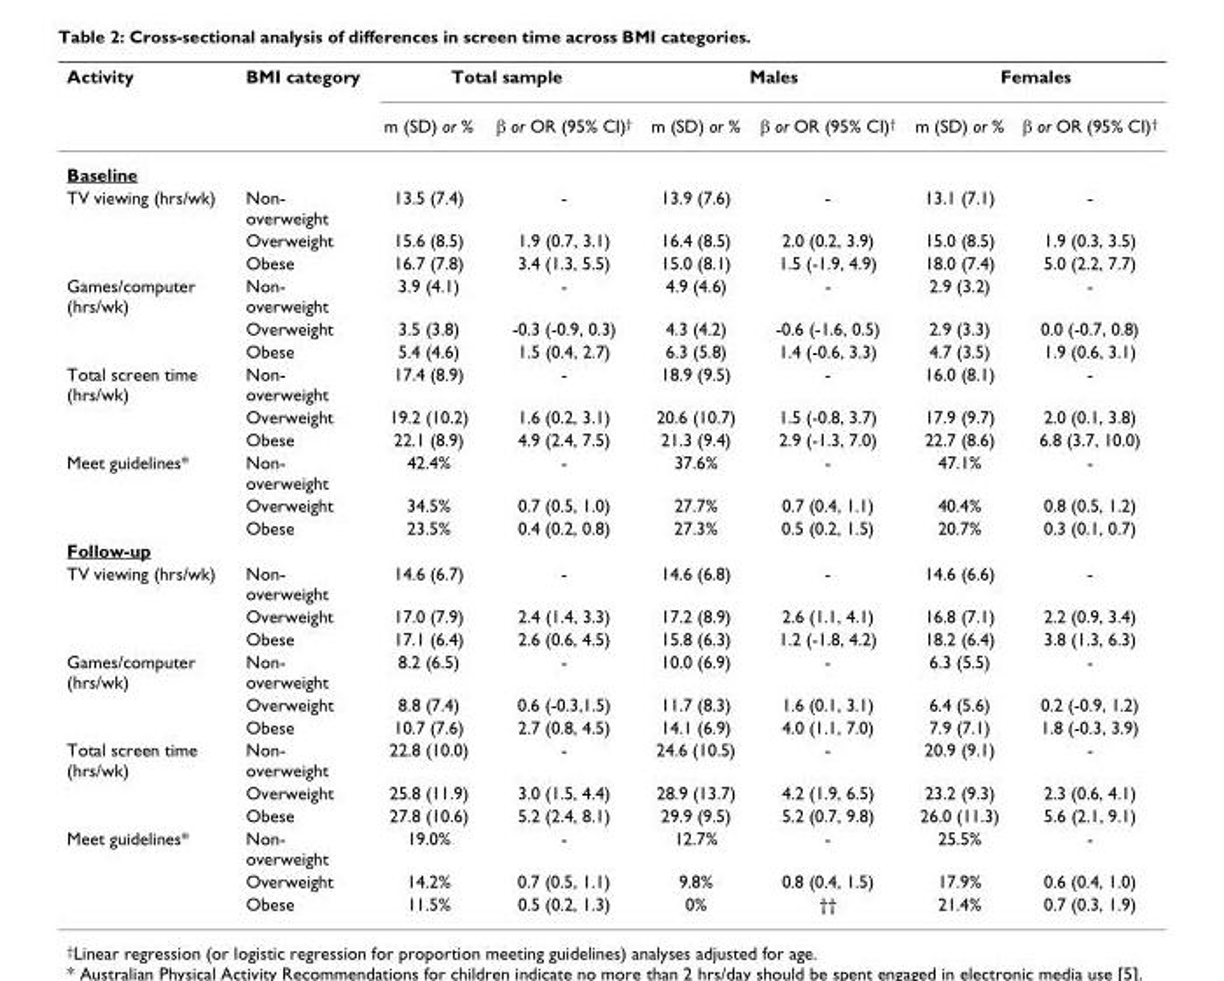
<table><thead><tr><td rowspan="2">Activity</td><td rowspan="2">BMI category</td><td colspan="2">Total sample</td><td colspan="2">Males</td><td colspan="2">Females</td></tr><tr><td>m (SD) or %</td><td>β or OR (95% CI)<sup>†</sup></td><td>m (SD) or %</td><td>β or OR (95% CI)<sup>†</sup></td><td>m (SD) or %</td><td>β or OR (95% CI)<sup>†</sup></td></tr></thead><tbody><tr><td colspan="8">Baseline</td></tr><tr><td rowspan="3">TV viewing (hrs/wk)</td><td>Non- overweight</td><td>13.5 (7.4)</td><td>-</td><td>13.9 (7.6)</td><td>-</td><td>13.1 (7.1)</td><td>-</td></tr><tr><td>Overweight</td><td>15.6 (8.5)</td><td>1.9 (0.7, 3.1)</td><td>16.4 (8.5)</td><td>2.0 (0.2, 3.9)</td><td>15.0 (8.5)</td><td>1.9 (0.3, 3.5)</td></tr><tr><td>Obese</td><td>16.7 (7.8)</td><td>3.4 (1.3, 5.5)</td><td>15.0 (8.1)</td><td>1.5 (-1.9, 4.9)</td><td>18.0 (7.4)</td><td>5.0 (2.2, 7.7)</td></tr><tr><td rowspan="3">Games/computer (hrs/wk)</td><td>Non- overweight</td><td>3.9 (4.1)</td><td>-</td><td>4.9 (4.6)</td><td>-</td><td>2.9 (3.2)</td><td>-</td></tr><tr><td>Overweight</td><td>3.5 (3.8)</td><td>-0.3 (-0.9, 0.3)</td><td>4.3 (4.2)</td><td>-0.6 (-1.6, 0.5)</td><td>2.9 (3.3)</td><td>0.0 (-0.7, 0.8)</td></tr><tr><td>Obese</td><td>5.4 (4.6)</td><td>1.5 (0.4, 2.7)</td><td>6.3 (5.8)</td><td>1.4 (-0.6, 3.3)</td><td>4.7 (3.5)</td><td>1.9 (0.6, 3.1)</td></tr><tr><td rowspan="3">Total screen time (hrs/wk)</td><td>Non- overweight</td><td>17.4 (8.9)</td><td>-</td><td>18.9 (9.5)</td><td>-</td><td>16.0 (8.1)</td><td>-</td></tr><tr><td>Overweight</td><td>19.2 (10.2)</td><td>1.6 (0.2, 3.1)</td><td>20.6 (10.7)</td><td>1.5 (-0.8, 3.7)</td><td>17.9 (9.7)</td><td>2.0 (0.1, 3.8)</td></tr><tr><td>Obese</td><td>22.1 (8.9)</td><td>4.9 (2.4, 7.5)</td><td>21.3 (9.4)</td><td>2.9 (-1.3, 7.0)</td><td>22.7 (8.6)</td><td>6.8 (3.7, 10.0)</td></tr><tr><td rowspan="3">Meet guidelines*</td><td>Non- overweight</td><td>42.4%</td><td>-</td><td>37.6%</td><td>-</td><td>47.1%</td><td>-</td></tr><tr><td>Overweight</td><td>34.5%</td><td>0.7 (0.5, 1.0)</td><td>27.7%</td><td>0.7 (0.4, 1.1)</td><td>40.4%</td><td>0.8 (0.5, 1.2)</td></tr><tr><td>Obese</td><td>23.5%</td><td>0.4 (0.2, 0.8)</td><td>27.3%</td><td>0.5 (0.2, 1.5)</td><td>20.7%</td><td>0.3 (0.1, 0.7)</td></tr><tr><td colspan="8">Follow-up</td></tr><tr><td rowspan="3">TV viewing (hrs/wk)</td><td>Non- overweight</td><td>14.6 (6.7)</td><td>-</td><td>14.6 (6.8)</td><td>-</td><td>14.6 (6.6)</td><td>-</td></tr><tr><td>Overweight</td><td>17.0 (7.9)</td><td>2.4 (1.4, 3.3)</td><td>17.2 (8.9)</td><td>2.6 (1.1, 4.1)</td><td>16.8 (7.1)</td><td>2.2 (0.9, 3.4)</td></tr><tr><td>Obese</td><td>17.1 (6.4)</td><td>2.6 (0.6, 4.5)</td><td>15.8 (6.3)</td><td>1.2 (-1.8, 4.2)</td><td>18.2 (6.4)</td><td>3.8 (1.3, 6.3)</td></tr><tr><td rowspan="3">Games/computer (hrs/wk)</td><td>Non- overweight</td><td>8.2 (6.5)</td><td>-</td><td>10.0 (6.9)</td><td>-</td><td>6.3 (5.5)</td><td>-</td></tr><tr><td>Overweight</td><td>8.8 (7.4)</td><td>0.6 (-0.3,1.5)</td><td>11.7 (8.3)</td><td>1.6 (0.1, 3.1)</td><td>6.4 (5.6)</td><td>0.2 (-0.9, 1.2)</td></tr><tr><td>Obese</td><td>10.7 (7.6)</td><td>2.7 (0.8, 4.5)</td><td>14.1 (6.9)</td><td>4.0 (1.1, 7.0)</td><td>7.9 (7.1)</td><td>1.8 (-0.3, 3.9)</td></tr><tr><td rowspan="3">Total screen time (hrs/wk)</td><td>Non- overweight</td><td>22.8 (10.0)</td><td>-</td><td>24.6 (10.5)</td><td>-</td><td>20.9 (9.1)</td><td>-</td></tr><tr><td>Overweight</td><td>25.8 (11.9)</td><td>3.0 (1.5, 4.4)</td><td>28.9 (13.7)</td><td>4.2 (1.9, 6.5)</td><td>23.2 (9.3)</td><td>2.3 (0.6, 4.1)</td></tr><tr><td>Obese</td><td>27.8 (10.6)</td><td>5.2 (2.4, 8.1)</td><td>29.9 (9.5)</td><td>5.2 (0.7, 9.8)</td><td>26.0 (11.3)</td><td>5.6 (2.1, 9.1)</td></tr><tr><td rowspan="3">Meet guidelines*</td><td>Non- overweight</td><td>19.0%</td><td>-</td><td>12.7%</td><td>-</td><td>25.5%</td><td>-</td></tr><tr><td>Overweight</td><td>14.2%</td><td>0.7 (0.5, 1.1)</td><td>9.8%</td><td>0.8 (0.4, 1.5)</td><td>17.9%</td><td>0.6 (0.4, 1.0)</td></tr><tr><td>Obese</td><td>11.5%</td><td>0.5 (0.2, 1.3)</td><td>0%</td><td>††</td><td>21.4%</td><td>0.7 (0.3, 1.9)</td></tr></tbody></table>